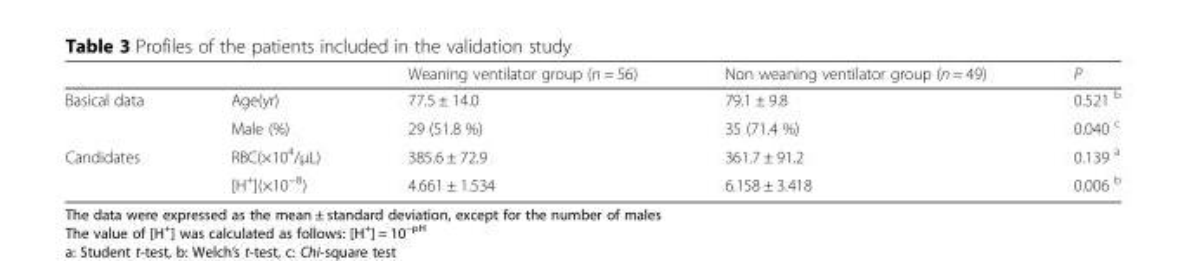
<table><thead><tr><td></td><td></td><td>Weaning ventilator group (n = 56)</td><td>Non weaning ventilator group (n = 49)</td><td>P</td></tr></thead><tbody><tr><td rowspan="2">Basical data</td><td>Age(yr)</td><td>77.5 ± 14.0</td><td>79.1 ± 9.8</td><td>0.521 <sup>b</sup></td></tr><tr><td>Male (%)</td><td>29 (51.8 %)</td><td>35 (71.4 %)</td><td>0.040 <sup>c</sup></td></tr><tr><td rowspan="2">Candidates</td><td>RBC(×10<sup>4</sup>/μL)</td><td>385.6 ± 72.9</td><td>361.7 ± 91.2</td><td>0.139 <sup>a</sup></td></tr><tr><td>[H<sup>+</sup>](×10<sup>−8</sup>)</td><td>4.661 ± 1.534</td><td>6.158 ± 3.418</td><td>0.006 <sup>b</sup></td></tr></tbody></table>